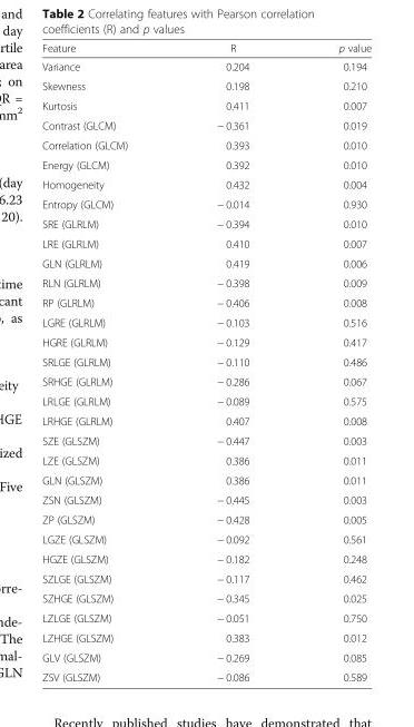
<table><thead><tr><td>Feature</td><td>R</td><td>p value</td></tr></thead><tbody><tr><td>Variance</td><td>0.204</td><td>0.194</td></tr><tr><td>Skewness</td><td>0.198</td><td>0.210</td></tr><tr><td>Kurtosis</td><td>0.411</td><td>0.007</td></tr><tr><td>Contrast (GLCM)</td><td>− 0.361</td><td>0.019</td></tr><tr><td>Correlation (GLCM)</td><td>0.393</td><td>0.010</td></tr><tr><td>Energy (GLCM)</td><td>0.392</td><td>0.010</td></tr><tr><td>Homogeneity</td><td>0.432</td><td>0.004</td></tr><tr><td>Entropy (GLCM)</td><td>− 0.014</td><td>0.930</td></tr><tr><td>SRE (GLRLM)</td><td>− 0.394</td><td>0.010</td></tr><tr><td>LRE (GLRLM)</td><td>0.410</td><td>0.007</td></tr><tr><td>GLN (GLRLM)</td><td>0.419</td><td>0.006</td></tr><tr><td>RLN (GLRLM)</td><td>− 0.398</td><td>0.009</td></tr><tr><td>RP (GLRLM)</td><td>− 0.406</td><td>0.008</td></tr><tr><td>LGRE (GLRLM)</td><td>− 0.103</td><td>0.516</td></tr><tr><td>HGRE (GLRLM)</td><td>− 0.129</td><td>0.417</td></tr><tr><td>SRLGE (GLRLM)</td><td>− 0.110</td><td>0.486</td></tr><tr><td>SRHGE (GLRLM)</td><td>− 0.286</td><td>0.067</td></tr><tr><td>LRLGE (GLRLM)</td><td>− 0.089</td><td>0.575</td></tr><tr><td>LRHGE (GLRLM)</td><td>0.407</td><td>0.008</td></tr><tr><td>SZE (GLSZM)</td><td>− 0.447</td><td>0.003</td></tr><tr><td>LZE (GLSZM)</td><td>0.386</td><td>0.011</td></tr><tr><td>GLN (GLSZM)</td><td>0.386</td><td>0.011</td></tr><tr><td>ZSN (GLSZM)</td><td>− 0.445</td><td>0.003</td></tr><tr><td>ZP (GLSZM)</td><td>− 0.428</td><td>0.005</td></tr><tr><td>LGZE (GLSZM)</td><td>− 0.092</td><td>0.561</td></tr><tr><td>HGZE (GLSZM)</td><td>− 0.182</td><td>0.248</td></tr><tr><td>SZLGE (GLSZM)</td><td>− 0.117</td><td>0.462</td></tr><tr><td>SZHGE (GLSZM)</td><td>− 0.345</td><td>0.025</td></tr><tr><td>LZLGE (GLSZM)</td><td>− 0.051</td><td>0.750</td></tr><tr><td>LZHGE (GLSZM)</td><td>0.383</td><td>0.012</td></tr><tr><td>GLV (GLSZM)</td><td>− 0.269</td><td>0.085</td></tr><tr><td>ZSV (GLSZM)</td><td>− 0.086</td><td>0.589</td></tr></tbody></table>